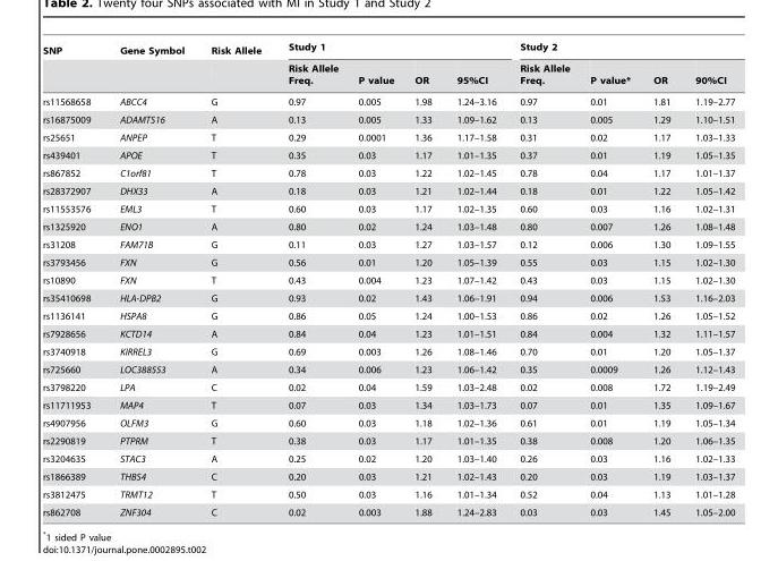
<table><thead><tr><td rowspan="2">SNP</td><td rowspan="2">Gene Symbol</td><td rowspan="2">Risk Allele</td><td colspan="4">Study 1</td><td colspan="4">Study 2</td></tr><tr><td>Risk Allele Freq.</td><td>P value</td><td>OR</td><td>95%CI</td><td>Risk Allele Freq.</td><td>P value*</td><td>OR</td><td>90%CI</td></tr></thead><tbody><tr><td>rs11568658</td><td>ABCC4</td><td>G</td><td>0.97</td><td>0.005</td><td>1.98</td><td>1.24–3.16</td><td>0.97</td><td>0.01</td><td>1.81</td><td>1.19–2.77</td></tr><tr><td>rs16875009</td><td>ADAMTS16</td><td>A</td><td>0.13</td><td>0.005</td><td>1.33</td><td>1.09–1.62</td><td>0.13</td><td>0.005</td><td>1.29</td><td>1.10–1.51</td></tr><tr><td>rs25651</td><td>ANPEP</td><td>T</td><td>0.29</td><td>0.0001</td><td>1.36</td><td>1.17–1.58</td><td>0.31</td><td>0.02</td><td>1.17</td><td>1.03–1.33</td></tr><tr><td>rs439401</td><td>APOE</td><td>T</td><td>0.35</td><td>0.03</td><td>1.17</td><td>1.01–1.35</td><td>0.37</td><td>0.01</td><td>1.19</td><td>1.05–1.35</td></tr><tr><td>rs867852</td><td>C1orf81</td><td>T</td><td>0.78</td><td>0.03</td><td>1.22</td><td>1.02–1.45</td><td>0.78</td><td>0.04</td><td>1.17</td><td>1.01–1.37</td></tr><tr><td>rs28372907</td><td>DHX33</td><td>A</td><td>0.18</td><td>0.03</td><td>1.21</td><td>1.02–1.44</td><td>0.18</td><td>0.01</td><td>1.22</td><td>1.05–1.42</td></tr><tr><td>rs11553576</td><td>EML3</td><td>T</td><td>0.60</td><td>0.03</td><td>1.17</td><td>1.02–1.35</td><td>0.60</td><td>0.03</td><td>1.16</td><td>1.02–1.31</td></tr><tr><td>rs1325920</td><td>ENO1</td><td>A</td><td>0.80</td><td>0.02</td><td>1.24</td><td>1.03–1.48</td><td>0.80</td><td>0.007</td><td>1.26</td><td>1.08–1.48</td></tr><tr><td>rs31208</td><td>FAM71B</td><td>G</td><td>0.11</td><td>0.03</td><td>1.27</td><td>1.03–1.57</td><td>0.12</td><td>0.006</td><td>1.30</td><td>1.09–1.55</td></tr><tr><td>rs3793456</td><td>FXN</td><td>G</td><td>0.56</td><td>0.01</td><td>1.20</td><td>1.05–1.39</td><td>0.55</td><td>0.03</td><td>1.15</td><td>1.02–1.30</td></tr><tr><td>rs10890</td><td>FXN</td><td>T</td><td>0.43</td><td>0.004</td><td>1.23</td><td>1.07–1.42</td><td>0.43</td><td>0.03</td><td>1.15</td><td>1.02–1.30</td></tr><tr><td>rs35410698</td><td>HLA-DPB2</td><td>G</td><td>0.93</td><td>0.02</td><td>1.43</td><td>1.06–1.91</td><td>0.94</td><td>0.006</td><td>1.53</td><td>1.16–2.03</td></tr><tr><td>rs1136141</td><td>HSPA8</td><td>G</td><td>0.86</td><td>0.05</td><td>1.24</td><td>1.00–1.53</td><td>0.86</td><td>0.02</td><td>1.26</td><td>1.05–1.52</td></tr><tr><td>rs7928656</td><td>KCTD14</td><td>A</td><td>0.84</td><td>0.04</td><td>1.23</td><td>1.01–1.51</td><td>0.84</td><td>0.004</td><td>1.32</td><td>1.11–1.57</td></tr><tr><td>rs3740918</td><td>KIRREL3</td><td>G</td><td>0.69</td><td>0.003</td><td>1.26</td><td>1.08–1.46</td><td>0.70</td><td>0.01</td><td>1.20</td><td>1.05–1.37</td></tr><tr><td>rs725660</td><td>LOC388553</td><td>A</td><td>0.34</td><td>0.006</td><td>1.23</td><td>1.06–1.42</td><td>0.35</td><td>0.0009</td><td>1.26</td><td>1.12–1.43</td></tr><tr><td>rs3798220</td><td>LPA</td><td>C</td><td>0.02</td><td>0.04</td><td>1.59</td><td>1.03–2.48</td><td>0.02</td><td>0.008</td><td>1.72</td><td>1.19–2.49</td></tr><tr><td>rs11711953</td><td>MAP4</td><td>T</td><td>0.07</td><td>0.03</td><td>1.34</td><td>1.03–1.73</td><td>0.07</td><td>0.01</td><td>1.35</td><td>1.09–1.67</td></tr><tr><td>rs4907956</td><td>OLFM3</td><td>G</td><td>0.60</td><td>0.03</td><td>1.18</td><td>1.02–1.36</td><td>0.61</td><td>0.01</td><td>1.19</td><td>1.05–1.34</td></tr><tr><td>rs2290819</td><td>PTPRM</td><td>T</td><td>0.38</td><td>0.03</td><td>1.17</td><td>1.01–1.35</td><td>0.38</td><td>0.008</td><td>1.20</td><td>1.06–1.35</td></tr><tr><td>rs3204635</td><td>STAC3</td><td>A</td><td>0.25</td><td>0.02</td><td>1.20</td><td>1.03–1.40</td><td>0.26</td><td>0.03</td><td>1.16</td><td>1.02–1.33</td></tr><tr><td>rs1866389</td><td>THBS4</td><td>C</td><td>0.20</td><td>0.03</td><td>1.21</td><td>1.02–1.43</td><td>0.20</td><td>0.03</td><td>1.19</td><td>1.03–1.37</td></tr><tr><td>rs3812475</td><td>TRMT12</td><td>T</td><td>0.50</td><td>0.03</td><td>1.16</td><td>1.01–1.34</td><td>0.52</td><td>0.04</td><td>1.13</td><td>1.01–1.28</td></tr><tr><td>rs862708</td><td>ZNF304</td><td>C</td><td>0.02</td><td>0.003</td><td>1.88</td><td>1.24–2.83</td><td>0.03</td><td>0.03</td><td>1.45</td><td>1.05–2.00</td></tr></tbody></table>